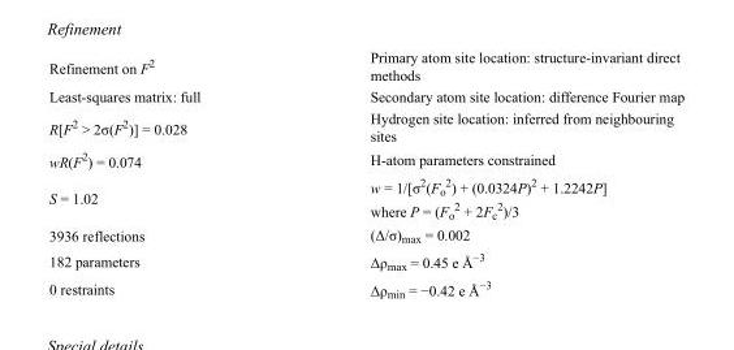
<table><tbody><tr><td>Refinement on F<sup>2</sup></td><td>Primary atom site location: structure-invariant direct methods</td></tr><tr><td>Least-squares matrix: full</td><td>Secondary atom site location: difference Fourier map</td></tr><tr><td>R[F<sup>2</sup> &gt; 2σ(F<sup>2</sup>)] = 0.028</td><td>Hydrogen site location: inferred from neighbouring sites</td></tr><tr><td>wR(F<sup>2</sup>) = 0.074</td><td>H-atom parameters constrained</td></tr><tr><td>S = 1.02</td><td>w = 1/[σ<sup>2</sup>(F<sub>o</sub> <sup>2</sup>) + (0.0324P)<sup>2</sup> + 1.2242P] where P = (F<sub>o</sub> <sup>2</sup> + 2F<sub>c</sub> <sup>2</sup>)/3</td></tr><tr><td>3936 reflections</td><td>(Δ/σ)<sub>max</sub> = 0.002</td></tr><tr><td>182 parameters</td><td>Δρ<sub>max</sub> = 0.45 e Å<sup>−3</sup></td></tr><tr><td>0 restraints</td><td>Δρ<sub>min</sub> = −0.42 e Å<sup>−3</sup></td></tr></tbody></table>